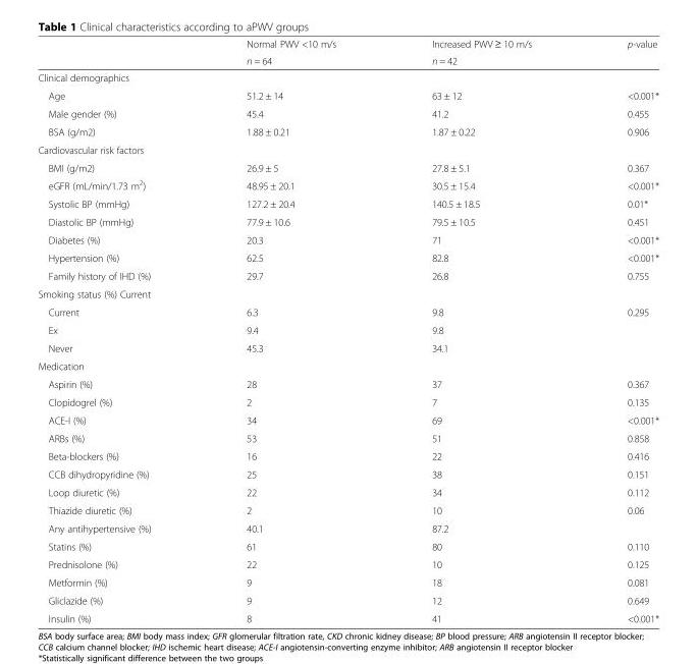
<table><thead><tr><td rowspan="2"></td><td rowspan="2">Normal PWV &lt;10 m/s n = 64</td><td rowspan="2">Increased PWV ≥ 10 m/s n = 42</td><td rowspan="2">p-value</td></tr><tr></tr></thead><tbody><tr><td colspan="4">Clinical demographics</td></tr><tr><td>Age</td><td>51.2 ± 14</td><td>63 ± 12</td><td>&lt;0.001*</td></tr><tr><td>Male gender (%)</td><td>45.4</td><td>41.2</td><td>0.455</td></tr><tr><td>BSA (g/m2)</td><td>1.88 ± 0.21</td><td>1.87 ± 0.22</td><td>0.906</td></tr><tr><td colspan="4">Cardiovascular risk factors</td></tr><tr><td>BMI (g/m2)</td><td>26.9 ± 5</td><td>27.8 ± 5.1</td><td>0.367</td></tr><tr><td>eGFR (mL/min/1.73 m<sup>2</sup>)</td><td>48.95 ± 20.1</td><td>30.5 ± 15.4</td><td>&lt;0.001*</td></tr><tr><td>Systolic BP (mmHg)</td><td>127.2 ± 20.4</td><td>140.5 ± 18.5</td><td>0.01*</td></tr><tr><td>Diastolic BP (mmHg)</td><td>77.9 ± 10.6</td><td>79.5 ± 10.5</td><td>0.451</td></tr><tr><td>Diabetes (%)</td><td>20.3</td><td>71</td><td>&lt;0.001*</td></tr><tr><td>Hypertension (%)</td><td>62.5</td><td>82.8</td><td>&lt;0.001*</td></tr><tr><td>Family history of IHD (%)</td><td>29.7</td><td>26.8</td><td>0.755</td></tr><tr><td colspan="4">Smoking status (%) Current</td></tr><tr><td>Current</td><td>6.3</td><td>9.8</td><td>0.295</td></tr><tr><td>Ex</td><td>9.4</td><td>9.8</td><td></td></tr><tr><td>Never</td><td>45.3</td><td>34.1</td><td></td></tr><tr><td colspan="4">Medication</td></tr><tr><td>Aspirin (%)</td><td>28</td><td>37</td><td>0.367</td></tr><tr><td>Clopidogrel (%)</td><td>2</td><td>7</td><td>0.135</td></tr><tr><td>ACE-I (%)</td><td>34</td><td>69</td><td>&lt;0.001*</td></tr><tr><td>ARBs (%)</td><td>53</td><td>51</td><td>0.858</td></tr><tr><td>Beta-blockers (%)</td><td>16</td><td>22</td><td>0.416</td></tr><tr><td>CCB dihydropyridine (%)</td><td>25</td><td>38</td><td>0.151</td></tr><tr><td>Loop diuretic (%)</td><td>22</td><td>34</td><td>0.112</td></tr><tr><td>Thiazide diuretic (%)</td><td>2</td><td>10</td><td>0.06</td></tr><tr><td>Any antihypertensive (%)</td><td>40.1</td><td>87.2</td><td></td></tr><tr><td>Statins (%)</td><td>61</td><td>80</td><td>0.110</td></tr><tr><td>Prednisolone (%)</td><td>22</td><td>10</td><td>0.125</td></tr><tr><td>Metformin (%)</td><td>9</td><td>18</td><td>0.081</td></tr><tr><td>Gliclazide (%)</td><td>9</td><td>12</td><td>0.649</td></tr><tr><td>Insulin (%)</td><td>8</td><td>41</td><td>&lt;0.001*</td></tr></tbody></table>